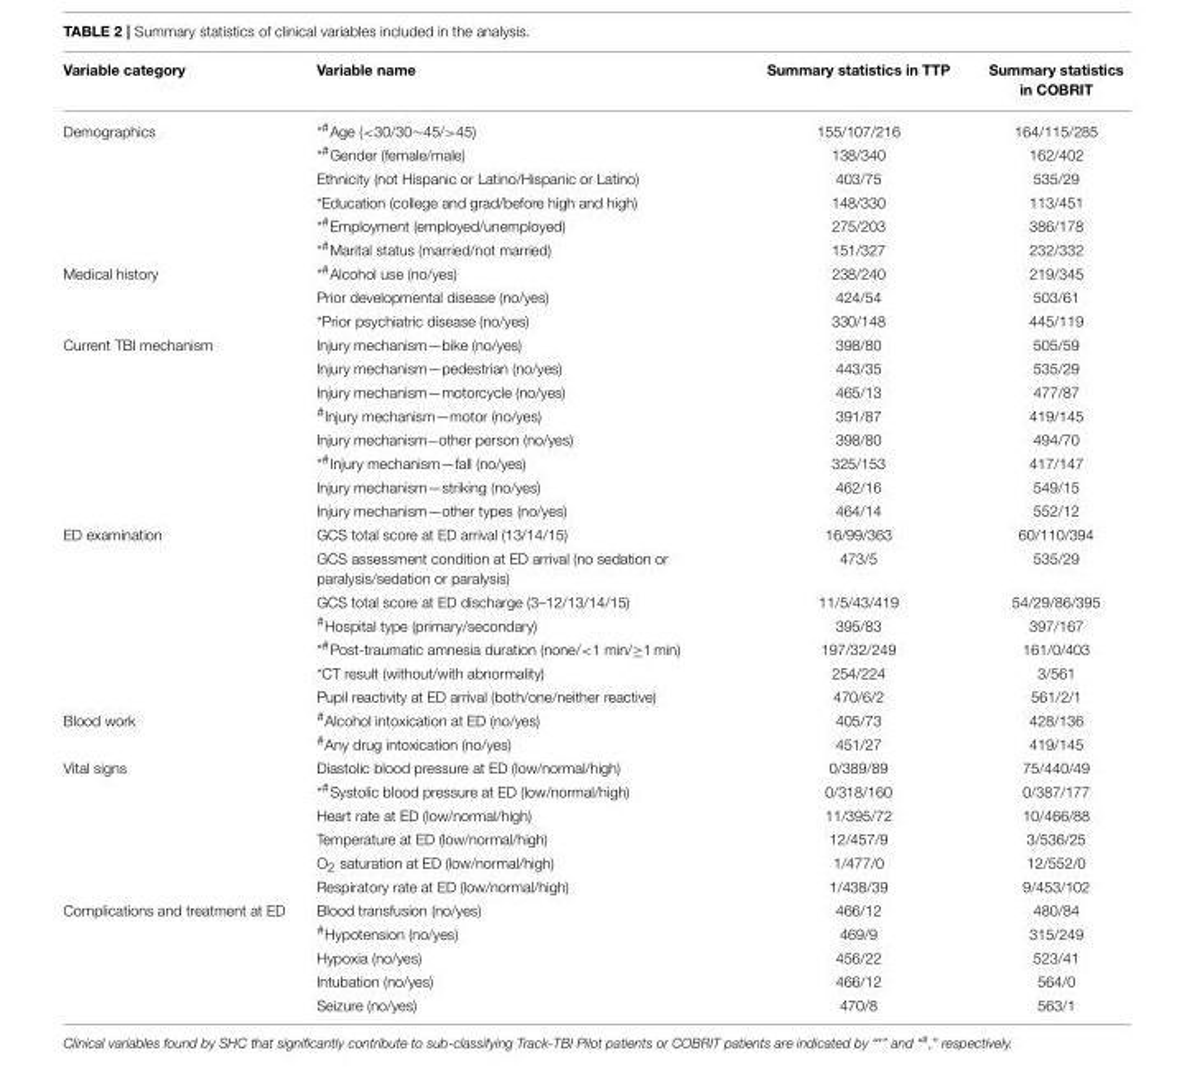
<table><thead><tr><td>Variable category</td><td>Variable name</td><td>Summary statistics in TTP</td><td>Summary statistics in COBRIT</td></tr></thead><tbody><tr><td rowspan="6">Demographics</td><td>*#Age (&lt;30/30∼45/&gt;45)</td><td>155/107/216</td><td>164/115/285</td></tr><tr><td><sup>*#</sup>Gender (female/male)</td><td>138/340</td><td>162/402</td></tr><tr><td>Ethnicity (not Hispanic or Latino/Hispanic or Latino)</td><td>403/75</td><td>535/29</td></tr><tr><td>*Education (college and grad/before high and high)</td><td>148/330</td><td>113/451</td></tr><tr><td><sup>*#</sup>Employment (employed/unemployed)</td><td>275/203</td><td>386/178</td></tr><tr><td><sup>*#</sup>Marital status (married/not married)</td><td>151/327</td><td>232/332</td></tr><tr><td rowspan="3">Medical history</td><td><sup>*#</sup>Alcohol use (no/yes)</td><td>238/240</td><td>219/345</td></tr><tr><td>Prior developmental disease (no/yes)</td><td>424/54</td><td>503/61</td></tr><tr><td>*Prior psychiatric disease (no/yes)</td><td>330/148</td><td>445/119</td></tr><tr><td rowspan="8">Current TBI mechanism</td><td>Injury mechanism—bike (no/yes)</td><td>398/80</td><td>505/59</td></tr><tr><td>Injury mechanism—pedestrian (no/yes)</td><td>443/35</td><td>535/29</td></tr><tr><td>Injury mechanism—motorcycle (no/yes)</td><td>465/13</td><td>477/87</td></tr><tr><td><sup>#</sup>Injury mechanism—motor (no/yes)</td><td>391/87</td><td>419/145</td></tr><tr><td>Injury mechanism−other person (no/yes)</td><td>398/80</td><td>494/70</td></tr><tr><td><sup>*#</sup>Injury mechanism—fall (no/yes)</td><td>325/153</td><td>417/147</td></tr><tr><td>Injury mechanism—striking (no/yes)</td><td>462/16</td><td>549/15</td></tr><tr><td>Injury mechanism—other types (no/yes)</td><td>464/14</td><td>552/12</td></tr><tr><td rowspan="7">ED examination</td><td>GCS total score at ED arrival (13/14/15)</td><td>16/99/363</td><td>60/110/394</td></tr><tr><td>GCS assessment condition at ED arrival (no sedation or paralysis/sedation or paralysis)</td><td>473/5</td><td>535/29</td></tr><tr><td>GCS total score at ED discharge (3–12/13/14/15)</td><td>11/5/43/419</td><td>54/29/86/395</td></tr><tr><td><sup>#</sup>Hospital type (primary/secondary)</td><td>395/83</td><td>397/167</td></tr><tr><td><sup>*#</sup>Post-traumatic amnesia duration (none/&lt;1 min/≥1 min)</td><td>197/32/249</td><td>161/0/403</td></tr><tr><td>*CT result (without/with abnormality)</td><td>254/224</td><td>3/561</td></tr><tr><td>Pupil reactivity at ED arrival (both/one/neither reactive)</td><td>470/6/2</td><td>561/2/1</td></tr><tr><td rowspan="2">Blood work</td><td><sup>#</sup>Alcohol intoxication at ED (no/yes)</td><td>405/73</td><td>428/136</td></tr><tr><td><sup>#</sup>Any drug intoxication (no/yes)</td><td>451/27</td><td>419/145</td></tr><tr><td rowspan="6">Vital signs</td><td>Diastolic blood pressure at ED (low/normal/high)</td><td>0/389/89</td><td>75/440/49</td></tr><tr><td><sup>*#</sup>Systolic blood pressure at ED (low/normal/high)</td><td>0/318/160</td><td>0/387/177</td></tr><tr><td>Heart rate at ED (low/normal/high)</td><td>11/395/72</td><td>10/466/88</td></tr><tr><td>Temperature at ED (low/normal/high)</td><td>12/457/9</td><td>3/536/25</td></tr><tr><td>O<sub>2</sub> saturation at ED (low/normal/high)</td><td>1/477/0</td><td>12/552/0</td></tr><tr><td>Respiratory rate at ED (low/normal/high)</td><td>1/438/39</td><td>9/453/102</td></tr><tr><td rowspan="5">Complications and treatment at ED</td><td>Blood transfusion (no/yes)</td><td>466/12</td><td>480/84</td></tr><tr><td><sup>#</sup>Hypotension (no/yes)</td><td>469/9</td><td>315/249</td></tr><tr><td>Hypoxia (no/yes)</td><td>456/22</td><td>523/41</td></tr><tr><td>Intubation (no/yes)</td><td>466/12</td><td>564/0</td></tr><tr><td>Seizure (no/yes)</td><td>470/8</td><td>563/1</td></tr></tbody></table>